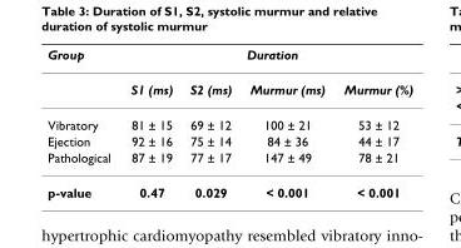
<table><thead><tr><td rowspan="2">Group</td><td colspan="4">Duration</td></tr><tr><td>S1 (ms)</td><td>S2 (ms)</td><td>Murmur (ms)</td><td>Murmur (%)</td></tr></thead><tbody><tr><td>Vibratory</td><td>81 ± 15</td><td>69 ± 12</td><td>100 ± 21</td><td>53 ± 12</td></tr><tr><td>Ejection</td><td>92 ± 16</td><td>75 ± 14</td><td>84 ± 36</td><td>44 ± 17</td></tr><tr><td>Pathological</td><td>87 ± 19</td><td>77 ± 17</td><td>147 ± 49</td><td>78 ± 21</td></tr><tr><td>p-value</td><td>0.47</td><td>0.029</td><td>&lt; 0.001</td><td>&lt; 0.001</td></tr></tbody></table>